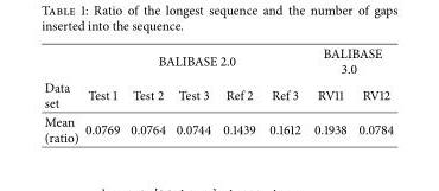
<table><thead><tr><td rowspan="2">Data set</td><td colspan="5">BALIBASE 2.0</td><td colspan="2">BALIBASE 3.0</td></tr><tr><td>Test 1</td><td>Test 2</td><td>Test 3</td><td>Ref 2</td><td>Ref 3</td><td>RV11</td><td>RV12</td></tr></thead><tbody><tr><td>Mean (ratio)</td><td>0.0769</td><td>0.0764</td><td>0.0744</td><td>0.1439</td><td>0.1612</td><td>0.1938</td><td>0.0784</td></tr></tbody></table>